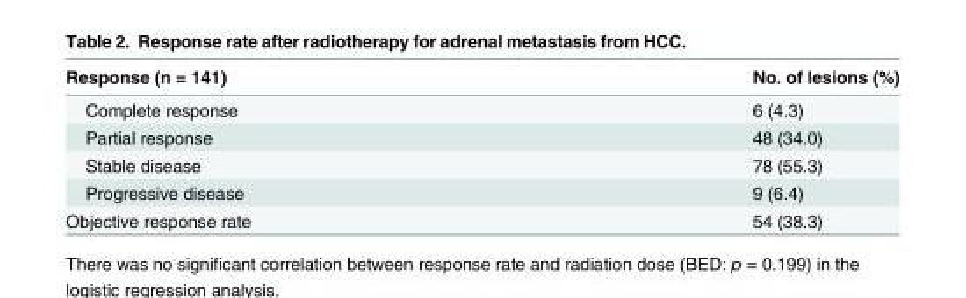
<table><thead><tr><td>Response (n = 141)</td><td>No. of lesions (%)</td></tr></thead><tbody><tr><td>Complete response</td><td>6 (4.3)</td></tr><tr><td>Partial response</td><td>48 (34.0)</td></tr><tr><td>Stable disease</td><td>78 (55.3)</td></tr><tr><td>Progressive disease</td><td>9 (6.4)</td></tr><tr><td>Objective response rate</td><td>54 (38.3)</td></tr></tbody></table>